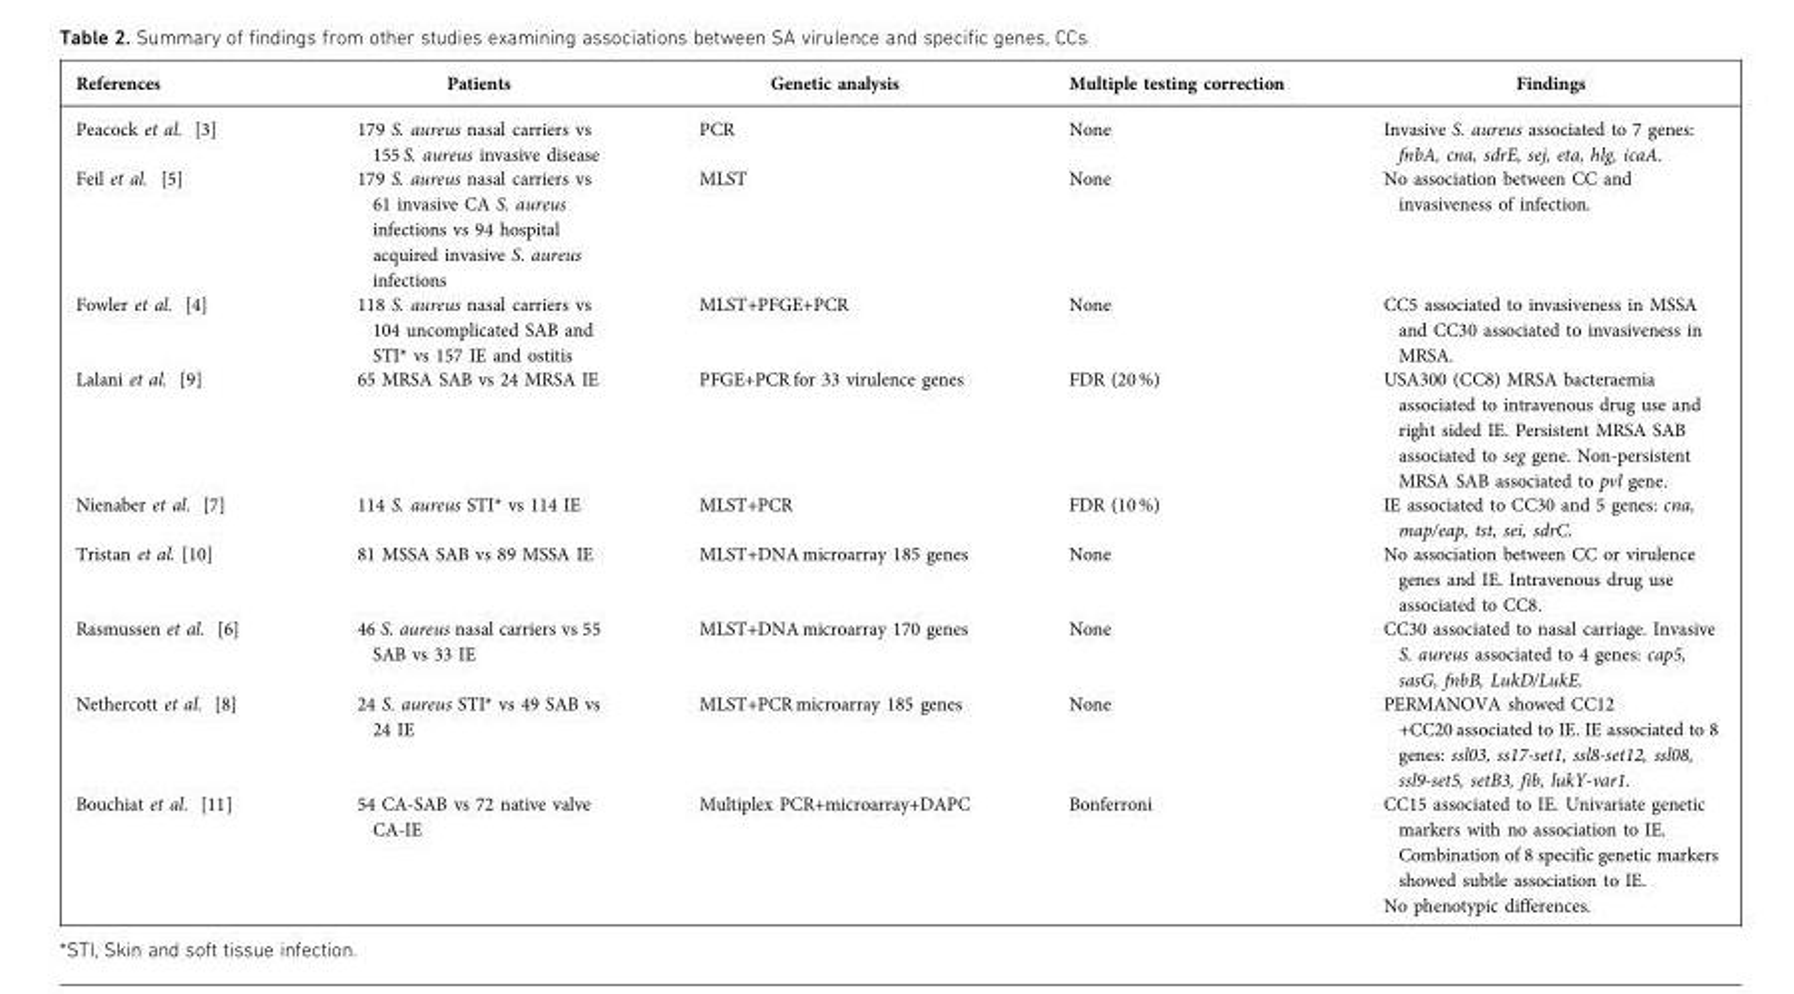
<table><thead><tr><td>References</td><td>Patients</td><td>Genetic analysis</td><td>Multiple testing correction</td><td>Findings</td></tr></thead><tbody><tr><td>Peacock et al. [3]</td><td>179 S. aureus nasal carriers vs 155 S. aureus invasive disease</td><td>PCR</td><td>None</td><td>Invasive S. aureus associated to 7 genes: fnbA, cna, sdrE, sej, eta, hlg, icaA.</td></tr><tr><td>Feil et al. [5]</td><td>179 S. aureus nasal carriers vs 61 invasive CA S. aureus infections vs 94 hospital acquired invasive S. aureus infections</td><td>MLST</td><td>None</td><td>No association between CC and invasiveness of infection.</td></tr><tr><td>Fowler et al. [4]</td><td>118 S. aureus nasal carriers vs 104 uncomplicated SAB and STI* vs 157 IE and ostitis</td><td>MLST+PFGE+PCR</td><td>None</td><td>CC5 associated to invasiveness in MSSA and CC30 associated to invasiveness in MRSA.</td></tr><tr><td>Lalani et al. [9]</td><td>65 MRSA SAB vs 24 MRSA IE</td><td>PFGE+PCR for 33 virulence genes</td><td>FDR (20 %)</td><td>USA300 (CC8) MRSA bacteraemia associated to intravenous drug use and right sided IE. Persistent MRSA SAB associated to seg gene. Non-persistent MRSA SAB associated to pvl gene.</td></tr><tr><td>Nienaber et al. [7]</td><td>114 S. aureus STI* vs 114 IE</td><td>MLST+PCR</td><td>FDR (10 %)</td><td>IE associated to CC30 and 5 genes: cna, map/eap, tst, sei, sdrC.</td></tr><tr><td>Tristan et al. [10]</td><td>81 MSSA SAB vs 89 MSSA IE</td><td>MLST+DNA microarray 185 genes</td><td>None</td><td>No association between CC or virulence genes and IE. Intravenous drug use associated to CC8.</td></tr><tr><td>Rasmussen et al. [6]</td><td>46 S. aureus nasal carriers vs 55 SAB vs 33 IE</td><td>MLST+DNA microarray 170 genes</td><td>None</td><td>CC30 associated to nasal carriage. Invasive S. aureus associated to 4 genes: cap5, sasG, fnbB, LukD/LukE.</td></tr><tr><td>Nethercott et al. [8]</td><td>24 S. aureus STI* vs 49 SAB vs 24 IE</td><td>MLST+PCR microarray 185 genes</td><td>None</td><td>PERMANOVA showed CC12 +CC20 associated to IE. IE associated to 8 genes: ssl03, ss17-set1, ssl8-set12, ssl08, ssl9-set5, setB3, fib, lukY-var1.</td></tr><tr><td>Bouchiat et al. [11]</td><td>54 CA-SAB vs 72 native valve CA-IE</td><td>Multiplex PCR+microarray+DAPC</td><td>Bonferroni</td><td>CC15 associated to IE. Univariate genetic markers with no association to IE. Combination of 8 specific genetic markers showed subtle association to IE. No phenotypic differences.</td></tr></tbody></table>